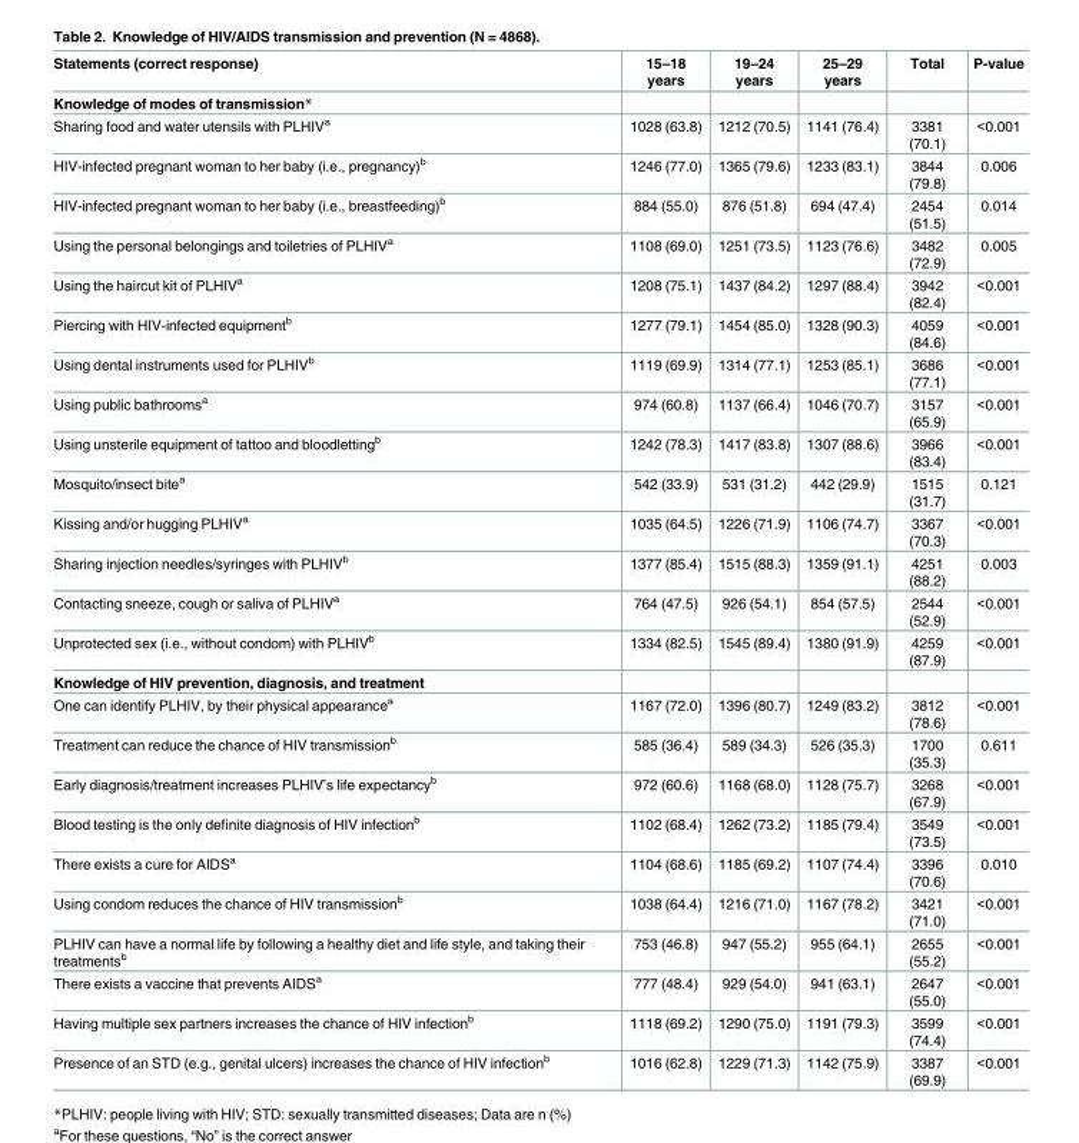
<table><thead><tr><td>Statements (correct response)</td><td>15–18 years</td><td>19–24 years</td><td>25–29 years</td><td>Total</td><td>P-value</td></tr></thead><tbody><tr><td colspan="6">Knowledge of modes of transmission*</td></tr><tr><td>Sharing food and water utensils with PLHIV<sup>a</sup></td><td>1028 (63.8)</td><td>1212 (70.5)</td><td>1141 (76.4)</td><td>3381 (70.1)</td><td>&lt;0.001</td></tr><tr><td>HIV-infected pregnant woman to her baby (i.e., pregnancy)<sup>b</sup></td><td>1246 (77.0)</td><td>1365 (79.6)</td><td>1233 (83.1)</td><td>3844 (79.8)</td><td>0.006</td></tr><tr><td>HIV-infected pregnant woman to her baby (i.e., breastfeeding)<sup>b</sup></td><td>884 (55.0)</td><td>876 (51.8)</td><td>694 (47.4)</td><td>2454 (51.5)</td><td>0.014</td></tr><tr><td>Using the personal belongings and toiletries of PLHIV<sup>a</sup></td><td>1108 (69.0)</td><td>1251 (73.5)</td><td>1123 (76.6)</td><td>3482 (72.9)</td><td>0.005</td></tr><tr><td>Using the haircut kit of PLHIV<sup>a</sup></td><td>1208 (75.1)</td><td>1437 (84.2)</td><td>1297 (88.4)</td><td>3942 (82.4)</td><td>&lt;0.001</td></tr><tr><td>Piercing with HIV-infected equipment<sup>b</sup></td><td>1277 (79.1)</td><td>1454 (85.0)</td><td>1328 (90.3)</td><td>4059 (84.6)</td><td>&lt;0.001</td></tr><tr><td>Using dental instruments used for PLHIV<sup>b</sup></td><td>1119 (69.9)</td><td>1314 (77.1)</td><td>1253 (85.1)</td><td>3686 (77.1)</td><td>&lt;0.001</td></tr><tr><td>Using public bathrooms<sup>a</sup></td><td>974 (60.8)</td><td>1137 (66.4)</td><td>1046 (70.7)</td><td>3157 (65.9)</td><td>&lt;0.001</td></tr><tr><td>Using unsterile equipment of tattoo and bloodletting<sup>b</sup></td><td>1242 (78.3)</td><td>1417 (83.8)</td><td>1307 (88.6)</td><td>3966 (83.4)</td><td>&lt;0.001</td></tr><tr><td>Mosquito/insect bite<sup>a</sup></td><td>542 (33.9)</td><td>531 (31.2)</td><td>442 (29.9)</td><td>1515 (31.7)</td><td>0.121</td></tr><tr><td>Kissing and/or hugging PLHIV<sup>a</sup></td><td>1035 (64.5)</td><td>1226 (71.9)</td><td>1106 (74.7)</td><td>3367 (70.3)</td><td>&lt;0.001</td></tr><tr><td>Sharing injection needles/syringes with PLHIV<sup>b</sup></td><td>1377 (85.4)</td><td>1515 (88.3)</td><td>1359 (91.1)</td><td>4251 (88.2)</td><td>0.003</td></tr><tr><td>Contacting sneeze, cough or saliva of PLHIV<sup>a</sup></td><td>764 (47.5)</td><td>926 (54.1)</td><td>854 (57.5)</td><td>2544 (52.9)</td><td>&lt;0.001</td></tr><tr><td>Unprotected sex (i.e., without condom) with PLHIV<sup>b</sup></td><td>1334 (82.5)</td><td>1545 (89.4)</td><td>1380 (91.9)</td><td>4259 (87.9)</td><td>&lt;0.001</td></tr><tr><td colspan="6">Knowledge of HIV prevention, diagnosis, and treatment</td></tr><tr><td>One can identify PLHIV, by their physical appearance<sup>a</sup></td><td>1167 (72.0)</td><td>1396 (80.7)</td><td>1249 (83.2)</td><td>3812 (78.6)</td><td>&lt;0.001</td></tr><tr><td>Treatment can reduce the chance of HIV transmission<sup>b</sup></td><td>585 (36.4)</td><td>589 (34.3)</td><td>526 (35.3)</td><td>1700 (35.3)</td><td>0.611</td></tr><tr><td>Early diagnosis/treatment increases PLHIV’s life expectancy<sup>b</sup></td><td>972 (60.6)</td><td>1168 (68.0)</td><td>1128 (75.7)</td><td>3268 (67.9)</td><td>&lt;0.001</td></tr><tr><td>Blood testing is the only definite diagnosis of HIV infection<sup>b</sup></td><td>1102 (68.4)</td><td>1262 (73.2)</td><td>1185 (79.4)</td><td>3549 (73.5)</td><td>&lt;0.001</td></tr><tr><td>There exists a cure for AIDS<sup>a</sup></td><td>1104 (68.6)</td><td>1185 (69.2)</td><td>1107 (74.4)</td><td>3396 (70.6)</td><td>0.010</td></tr><tr><td>Using condom reduces the chance of HIV transmission<sup>b</sup></td><td>1038 (64.4)</td><td>1216 (71.0)</td><td>1167 (78.2)</td><td>3421 (71.0)</td><td>&lt;0.001</td></tr><tr><td>PLHIV can have a normal life by following a healthy diet and life style, and taking their treatments<sup>b</sup></td><td>753 (46.8)</td><td>947 (55.2)</td><td>955 (64.1)</td><td>2655 (55.2)</td><td>&lt;0.001</td></tr><tr><td>There exists a vaccine that prevents AIDS<sup>a</sup></td><td>777 (48.4)</td><td>929 (54.0)</td><td>941 (63.1)</td><td>2647 (55.0)</td><td>&lt;0.001</td></tr><tr><td>Having multiple sex partners increases the chance of HIV infection<sup>b</sup></td><td>1118 (69.2)</td><td>1290 (75.0)</td><td>1191 (79.3)</td><td>3599 (74.4)</td><td>&lt;0.001</td></tr><tr><td>Presence of an STD (e.g., genital ulcers) increases the chance of HIV infection<sup>b</sup></td><td>1016 (62.8)</td><td>1229 (71.3)</td><td>1142 (75.9)</td><td>3387 (69.9)</td><td>&lt;0.001</td></tr></tbody></table>